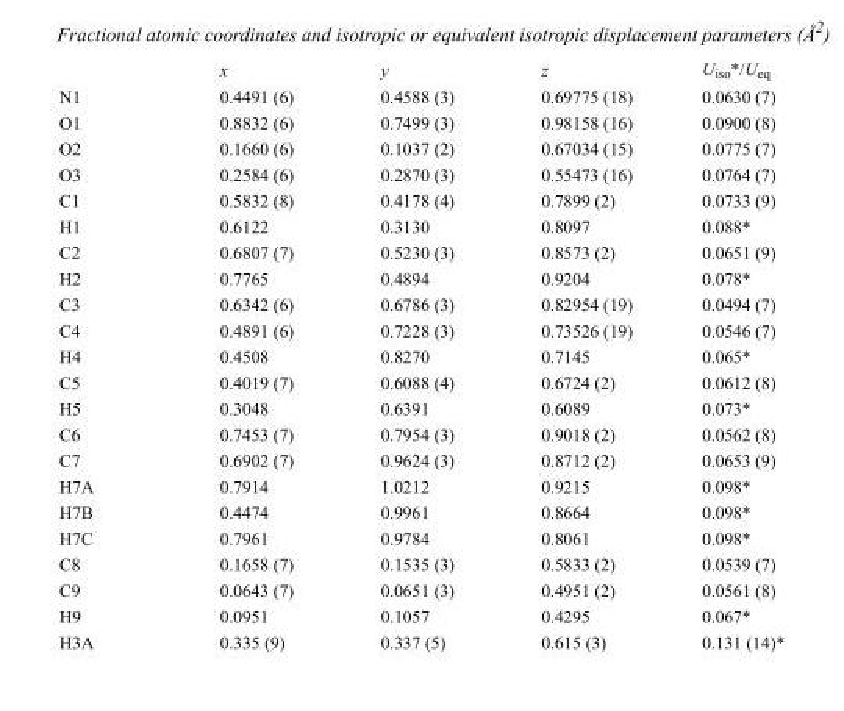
<table><thead><tr><td></td><td>x</td><td>y</td><td>z</td><td>U<sub>iso</sub>*/U<sub>eq</sub></td></tr></thead><tbody><tr><td>N1</td><td>0.4491 (6)</td><td>0.4588 (3)</td><td>0.69775 (18)</td><td>0.0630 (7)</td></tr><tr><td>O1</td><td>0.8832 (6)</td><td>0.7499 (3)</td><td>0.98158 (16)</td><td>0.0900 (8)</td></tr><tr><td>O2</td><td>0.1660 (6)</td><td>0.1037 (2)</td><td>0.67034 (15)</td><td>0.0775 (7)</td></tr><tr><td>O3</td><td>0.2584 (6)</td><td>0.2870 (3)</td><td>0.55473 (16)</td><td>0.0764 (7)</td></tr><tr><td>C1</td><td>0.5832 (8)</td><td>0.4178 (4)</td><td>0.7899 (2)</td><td>0.0733 (9)</td></tr><tr><td>H1</td><td>0.6122</td><td>0.3130</td><td>0.8097</td><td>0.088*</td></tr><tr><td>C2</td><td>0.6807 (7)</td><td>0.5230 (3)</td><td>0.8573 (2)</td><td>0.0651 (9)</td></tr><tr><td>H2</td><td>0.7765</td><td>0.4894</td><td>0.9204</td><td>0.078*</td></tr><tr><td>C3</td><td>0.6342 (6)</td><td>0.6786 (3)</td><td>0.82954 (19)</td><td>0.0494 (7)</td></tr><tr><td>C4</td><td>0.4891 (6)</td><td>0.7228 (3)</td><td>0.73526 (19)</td><td>0.0546 (7)</td></tr><tr><td>H4</td><td>0.4508</td><td>0.8270</td><td>0.7145</td><td>0.065*</td></tr><tr><td>C5</td><td>0.4019 (7)</td><td>0.6088 (4)</td><td>0.6724 (2)</td><td>0.0612 (8)</td></tr><tr><td>H5</td><td>0.3048</td><td>0.6391</td><td>0.6089</td><td>0.073*</td></tr><tr><td>C6</td><td>0.7453 (7)</td><td>0.7954 (3)</td><td>0.9018 (2)</td><td>0.0562 (8)</td></tr><tr><td>C7</td><td>0.6902 (7)</td><td>0.9624 (3)</td><td>0.8712 (2)</td><td>0.0653 (9)</td></tr><tr><td>H7A</td><td>0.7914</td><td>1.0212</td><td>0.9215</td><td>0.098*</td></tr><tr><td>H7B</td><td>0.4474</td><td>0.9961</td><td>0.8664</td><td>0.098*</td></tr><tr><td>H7C</td><td>0.7961</td><td>0.9784</td><td>0.8061</td><td>0.098*</td></tr><tr><td>C8</td><td>0.1658 (7)</td><td>0.1535 (3)</td><td>0.5833 (2)</td><td>0.0539 (7)</td></tr><tr><td>C9</td><td>0.0643 (7)</td><td>0.0651 (3)</td><td>0.4951 (2)</td><td>0.0561 (8)</td></tr><tr><td>H9</td><td>0.0951</td><td>0.1057</td><td>0.4295</td><td>0.067*</td></tr><tr><td>H3A</td><td>0.335 (9)</td><td>0.337 (5)</td><td>0.615 (3)</td><td>0.131 (14)*</td></tr></tbody></table>